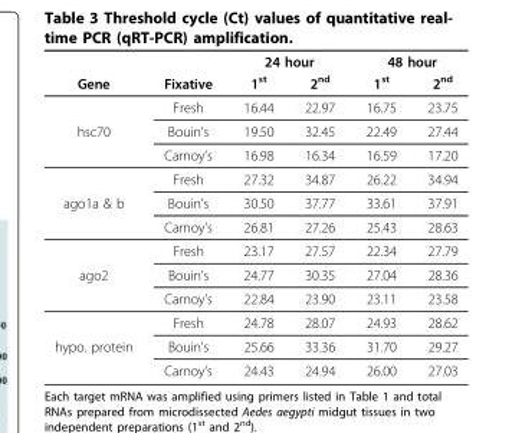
<table><thead><tr><td rowspan="2">Gene</td><td rowspan="2">Fixative</td><td colspan="2">24 hour</td><td colspan="2">48 hour</td></tr><tr><td>1<sup>st</sup></td><td>2<sup>nd</sup></td><td>1<sup>st</sup></td><td>2<sup>nd</sup></td></tr></thead><tbody><tr><td></td><td>Fresh</td><td>16.44</td><td>22.97</td><td>16.75</td><td>23.75</td></tr><tr><td rowspan="3">hsc70</td><td>Bouin’s</td><td>19.50</td><td>32.45</td><td>22.49</td><td>27.44</td></tr><tr><td>Carnoy’s</td><td>16.98</td><td>16.34</td><td>16.59</td><td>17.20</td></tr><tr><td>Fresh</td><td>27.32</td><td>34.87</td><td>26.22</td><td>34.94</td></tr><tr><td rowspan="3">ago1a &amp; b</td><td>Bouin’s</td><td>30.50</td><td>37.77</td><td>33.61</td><td>37.91</td></tr><tr><td>Carnoy’s</td><td>26.81</td><td>27.26</td><td>25.43</td><td>28.63</td></tr><tr><td>Fresh</td><td>23.17</td><td>27.57</td><td>22.34</td><td>27.79</td></tr><tr><td rowspan="3">ago2</td><td>Bouin’s</td><td>24.77</td><td>30.35</td><td>27.04</td><td>28.36</td></tr><tr><td>Carnoy’s</td><td>22.84</td><td>23.90</td><td>23.11</td><td>23.58</td></tr><tr><td>Fresh</td><td>24.78</td><td>28.07</td><td>24.93</td><td>28.62</td></tr><tr><td rowspan="2">hypo. protein</td><td>Bouin’s</td><td>25.66</td><td>33.36</td><td>31.70</td><td>29.27</td></tr><tr><td>Carnoy’s</td><td>24.43</td><td>24.94</td><td>26.00</td><td>27.03</td></tr></tbody></table>